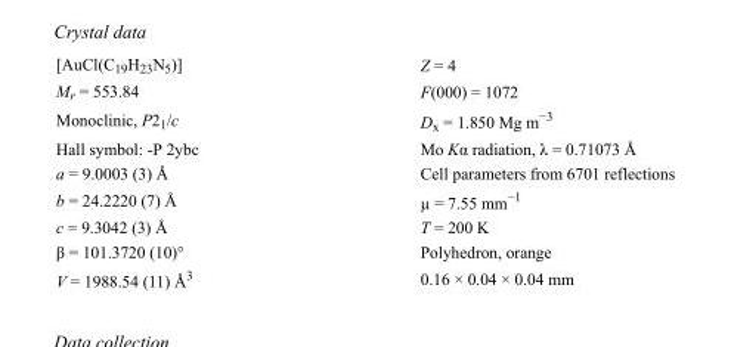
<table><tbody><tr><td>[AuCl(C<sub>19</sub>H<sub>23</sub>N<sub>5</sub>)]</td><td>Z = 4</td></tr><tr><td>M<sub>r</sub> = 553.84</td><td>F(000) = 1072</td></tr><tr><td>Monoclinic, P2<sub>1</sub>/c</td><td>D<sub>x</sub> = 1.850 Mg m<sup>−3</sup></td></tr><tr><td>Hall symbol: -P 2ybc</td><td>Mo Kα radiation, λ = 0.71073 Å</td></tr><tr><td>a = 9.0003 (3) Å</td><td>Cell parameters from 6701 reflections</td></tr><tr><td>b = 24.2220 (7) Å</td><td>µ = 7.55 mm<sup>−1</sup></td></tr><tr><td>c = 9.3042 (3) Å</td><td>T = 200 K</td></tr><tr><td>β = 101.3720 (10)°</td><td>Polyhedron, orange</td></tr><tr><td>V = 1988.54 (11) Å<sup>3</sup></td><td>0.16 × 0.04 × 0.04 mm</td></tr></tbody></table>